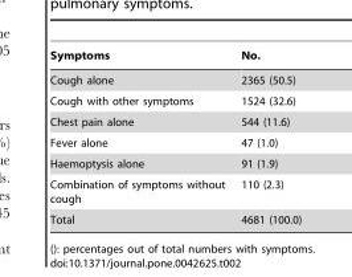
<table><thead><tr><td>Symptoms</td><td>No.</td></tr></thead><tbody><tr><td>Cough alone</td><td>2365 (50.5)</td></tr><tr><td>Cough with other symptoms</td><td>1524 (32.6)</td></tr><tr><td>Chest pain alone</td><td>544 (11.6)</td></tr><tr><td>Fever alone</td><td>47 (1.0)</td></tr><tr><td>Haemoptysis alone</td><td>91 (1.9)</td></tr><tr><td>Combination of symptoms without cough</td><td>110 (2.3)</td></tr><tr><td>Total</td><td>4681 (100.0)</td></tr></tbody></table>